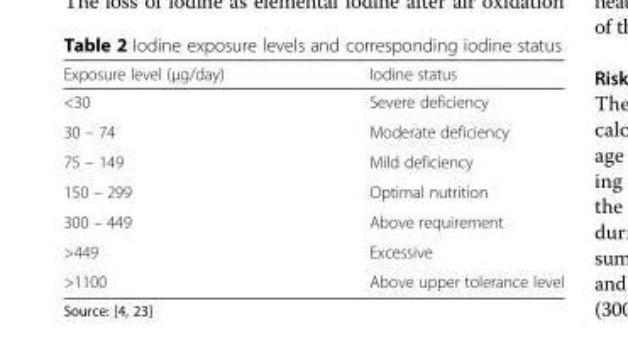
<table><thead><tr><td>Exposure level (μg/day)</td><td>Iodine status</td></tr></thead><tbody><tr><td>&lt;30</td><td>Severe deficiency</td></tr><tr><td>30 – 74</td><td>Moderate deficiency</td></tr><tr><td>75 – 149</td><td>Mild deficiency</td></tr><tr><td>150 – 299</td><td>Optimal nutrition</td></tr><tr><td>300 – 449</td><td>Above requirement</td></tr><tr><td>&gt;449</td><td>Excessive</td></tr><tr><td>&gt;1100</td><td>Above upper tolerance level</td></tr></tbody></table>